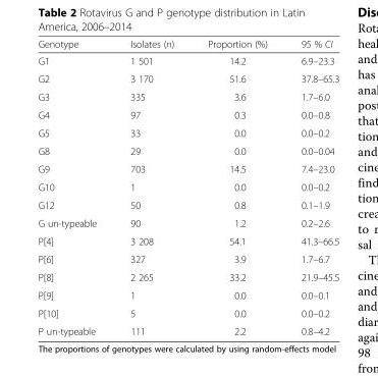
<table><thead><tr><td>Genotype</td><td>Isolates (n)</td><td>Proportion (%)</td><td>95 % CI</td></tr></thead><tbody><tr><td>G1</td><td>1 501</td><td>14.2</td><td>6.9–23.3</td></tr><tr><td>G2</td><td>3 170</td><td>51.6</td><td>37.8–65.3</td></tr><tr><td>G3</td><td>335</td><td>3.6</td><td>1.7–6.0</td></tr><tr><td>G4</td><td>97</td><td>0.3</td><td>0.0–0.8</td></tr><tr><td>G5</td><td>33</td><td>0.0</td><td>0.0–0.2</td></tr><tr><td>G8</td><td>29</td><td>0.0</td><td>0.0–0.04</td></tr><tr><td>G9</td><td>703</td><td>14.5</td><td>7.4–23.0</td></tr><tr><td>G10</td><td>1</td><td>0.0</td><td>0.0–0.2</td></tr><tr><td>G12</td><td>50</td><td>0.8</td><td>0.1–1.9</td></tr><tr><td>G un-typeable</td><td>90</td><td>1.2</td><td>0.2–2.6</td></tr><tr><td>P[4]</td><td>3 208</td><td>54.1</td><td>41.3–66.5</td></tr><tr><td>P[6]</td><td>327</td><td>3.9</td><td>1.7–6.7</td></tr><tr><td>P[8]</td><td>2 265</td><td>33.2</td><td>21.9–45.5</td></tr><tr><td>P[9]</td><td>1</td><td>0.0</td><td>0.0–0.1</td></tr><tr><td>P[10]</td><td>5</td><td>0.0</td><td>0.0–0.2</td></tr><tr><td>P un-typeable</td><td>111</td><td>2.2</td><td>0.8–4.2</td></tr></tbody></table>